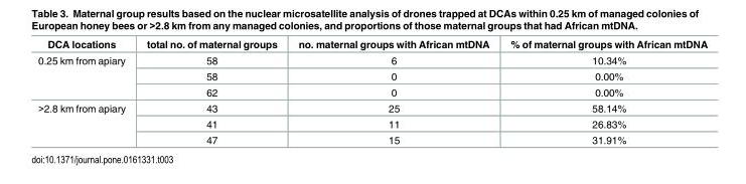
<table><thead><tr><td>DCA locations</td><td>total no. of maternal groups</td><td>no. maternal groups with African mtDNA</td><td>% of maternal groups with African mtDNA</td></tr></thead><tbody><tr><td rowspan="3">0.25 km from apiary</td><td>58</td><td>6</td><td>10.34%</td></tr><tr><td>58</td><td>0</td><td>0.00%</td></tr><tr><td>62</td><td>0</td><td>0.00%</td></tr><tr><td rowspan="3">&gt;2.8 km from apiary</td><td>43</td><td>25</td><td>58.14%</td></tr><tr><td>41</td><td>11</td><td>26.83%</td></tr><tr><td>47</td><td>15</td><td>31.91%</td></tr></tbody></table>